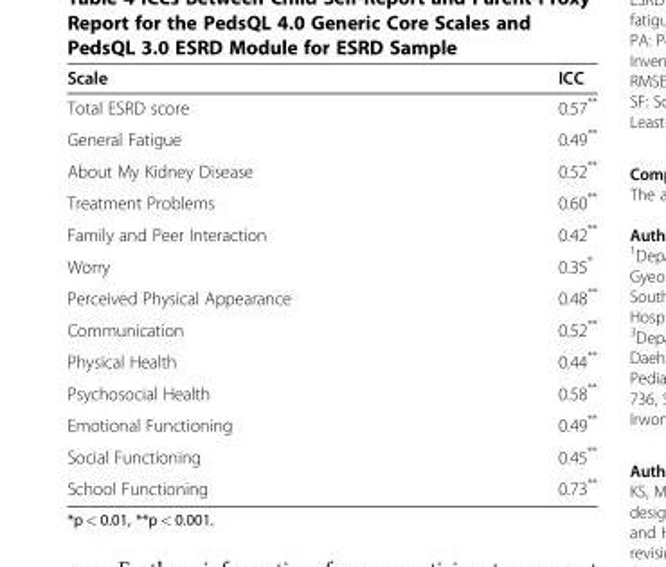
<table><thead><tr><td>Scale</td><td>ICC</td></tr></thead><tbody><tr><td>Total ESRD score</td><td>0.57**</td></tr><tr><td>General Fatigue</td><td>0.49**</td></tr><tr><td>About My Kidney Disease</td><td>0.52**</td></tr><tr><td>Treatment Problems</td><td>0.60**</td></tr><tr><td>Family and Peer Interaction</td><td>0.42**</td></tr><tr><td>Worry</td><td>0.35*</td></tr><tr><td>Perceived Physical Appearance</td><td>0.48**</td></tr><tr><td>Communication</td><td>0.52**</td></tr><tr><td>Physical Health</td><td>0.44**</td></tr><tr><td>Psychosocial Health</td><td>0.58**</td></tr><tr><td>Emotional Functioning</td><td>0.49**</td></tr><tr><td>Social Functioning</td><td>0.45**</td></tr><tr><td>School Functioning</td><td>0.73**</td></tr></tbody></table>